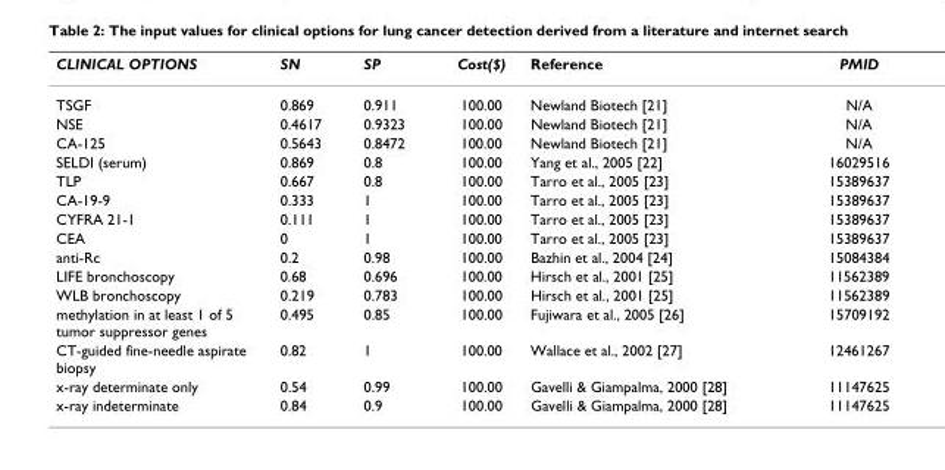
<table><thead><tr><td>CLINICAL OPTIONS</td><td>SN</td><td>SP</td><td>Cost($)</td><td>Reference</td><td>PMID</td></tr></thead><tbody><tr><td>TSGF</td><td>0.869</td><td>0.911</td><td>100.00</td><td>Newland Biotech [21]</td><td>N/A</td></tr><tr><td>NSE</td><td>0.4617</td><td>0.9323</td><td>100.00</td><td>Newland Biotech [21]</td><td>N/A</td></tr><tr><td>CA-125</td><td>0.5643</td><td>0.8472</td><td>100.00</td><td>Newland Biotech [21]</td><td>N/A</td></tr><tr><td>SELDI (serum)</td><td>0.869</td><td>0.8</td><td>100.00</td><td>Yang et al., 2005 [22]</td><td>16029516</td></tr><tr><td>TLP</td><td>0.667</td><td>0.8</td><td>100.00</td><td>Tarro et al., 2005 [23]</td><td>15389637</td></tr><tr><td>CA-19-9</td><td>0.333</td><td>1</td><td>100.00</td><td>Tarro et al., 2005 [23]</td><td>15389637</td></tr><tr><td>CYFRA 21-1</td><td>0.111</td><td>1</td><td>100.00</td><td>Tarro et al., 2005 [23]</td><td>15389637</td></tr><tr><td>CEA</td><td>0</td><td>1</td><td>100.00</td><td>Tarro et al., 2005 [23]</td><td>15389637</td></tr><tr><td>anti-Rc</td><td>0.2</td><td>0.98</td><td>100.00</td><td>Bazhin et al., 2004 [24]</td><td>15084384</td></tr><tr><td>LIFE bronchoscopy</td><td>0.68</td><td>0.696</td><td>100.00</td><td>Hirsch et al., 2001 [25]</td><td>11562389</td></tr><tr><td>WLB bronchoscopy</td><td>0.219</td><td>0.783</td><td>100.00</td><td>Hirsch et al., 2001 [25]</td><td>11562389</td></tr><tr><td>methylation in at least 1 of 5 tumor suppressor genes</td><td>0.495</td><td>0.85</td><td>100.00</td><td>Fujiwara et al., 2005 [26]</td><td>15709192</td></tr><tr><td>CT-guided fine-needle aspirate biopsy</td><td>0.82</td><td>1</td><td>100.00</td><td>Wallace et al., 2002 [27]</td><td>12461267</td></tr><tr><td>x-ray determinate only</td><td>0.54</td><td>0.99</td><td>100.00</td><td>Gavelli &amp; Giampalma, 2000 [28]</td><td>11147625</td></tr><tr><td>x-ray indeterminate</td><td>0.84</td><td>0.9</td><td>100.00</td><td>Gavelli &amp; Giampalma, 2000 [28]</td><td>11147625</td></tr></tbody></table>